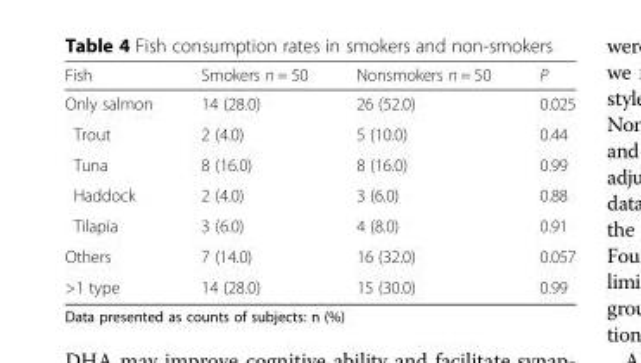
<table><thead><tr><td>Fish</td><td>Smokers n = 50</td><td>Nonsmokers n = 50</td><td>P</td></tr></thead><tbody><tr><td>Only salmon</td><td>14 (28.0)</td><td>26 (52.0)</td><td>0.025</td></tr><tr><td>Trout</td><td>2 (4.0)</td><td>5 (10.0)</td><td>0.44</td></tr><tr><td>Tuna</td><td>8 (16.0)</td><td>8 (16.0)</td><td>0.99</td></tr><tr><td>Haddock</td><td>2 (4.0)</td><td>3 (6.0)</td><td>0.88</td></tr><tr><td>Tilapia</td><td>3 (6.0)</td><td>4 (8.0)</td><td>0.91</td></tr><tr><td>Others</td><td>7 (14.0)</td><td>16 (32.0)</td><td>0.057</td></tr><tr><td>&gt;1 type</td><td>14 (28.0)</td><td>15 (30.0)</td><td>0.99</td></tr></tbody></table>